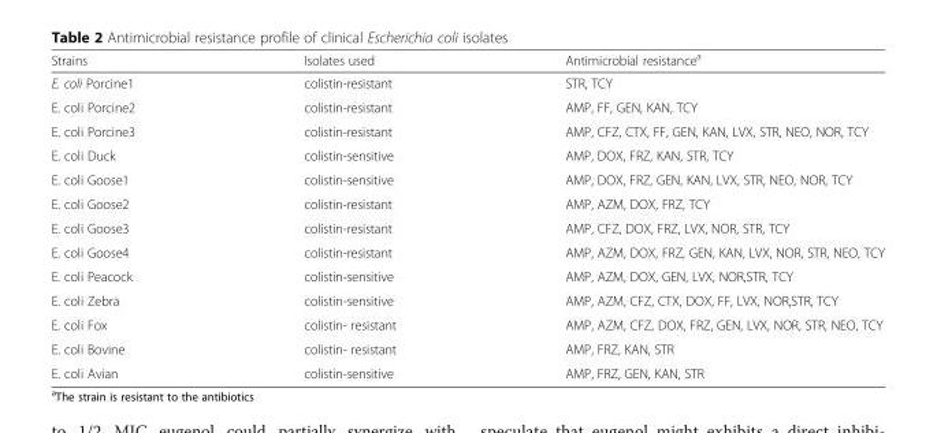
<table><thead><tr><td>Strains</td><td>Isolates used</td><td>Antimicrobial resistance<sup>a</sup></td></tr></thead><tbody><tr><td>E. coli Porcine1</td><td>colistin-resistant</td><td>STR, TCY</td></tr><tr><td>E. coli Porcine2</td><td>colistin-resistant</td><td>AMP, FF, GEN, KAN, TCY</td></tr><tr><td>E. coli Porcine3</td><td>colistin-resistant</td><td>AMP, CFZ, CTX, FF, GEN, KAN, LVX, STR, NEO, NOR, TCY</td></tr><tr><td>E. coli Duck</td><td>colistin-sensitive</td><td>AMP, DOX, FRZ, KAN, STR, TCY</td></tr><tr><td>E. coli Goose1</td><td>colistin-sensitive</td><td>AMP, DOX, FRZ, GEN, KAN, LVX, STR, NEO, NOR, TCY</td></tr><tr><td>E. coli Goose2</td><td>colistin-resistant</td><td>AMP, AZM, DOX, FRZ, TCY</td></tr><tr><td>E. coli Goose3</td><td>colistin-resistant</td><td>AMP, CFZ, DOX, FRZ, LVX, NOR, STR, TCY</td></tr><tr><td>E. coli Goose4</td><td>colistin-resistant</td><td>AMP, AZM, DOX, FRZ, GEN, KAN, LVX, NOR, STR, NEO, TCY</td></tr><tr><td>E. coli Peacock</td><td>colistin-sensitive</td><td>AMP, AZM, DOX, GEN, LVX, NOR,STR, TCY</td></tr><tr><td>E. coli Zebra</td><td>colistin-sensitive</td><td>AMP, AZM, CFZ, CTX, DOX, FF, LVX, NOR,STR, TCY</td></tr><tr><td>E. coli Fox</td><td>colistin- resistant</td><td>AMP, AZM, CFZ, DOX, FRZ, GEN, LVX, NOR, STR, NEO, TCY</td></tr><tr><td>E. coli Bovine</td><td>colistin- resistant</td><td>AMP, FRZ, KAN, STR</td></tr><tr><td>E. coli Avian</td><td>colistin-sensitive</td><td>AMP, FRZ, GEN, KAN, STR</td></tr></tbody></table>